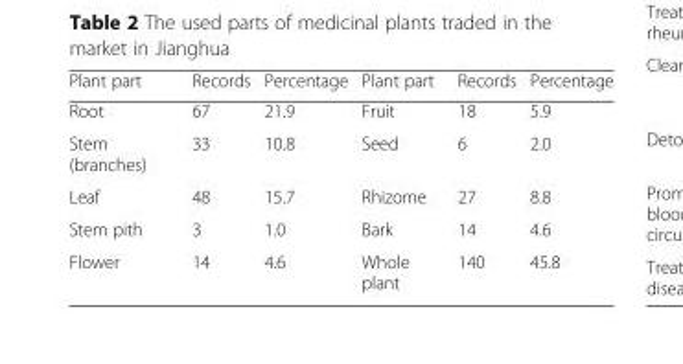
<table><thead><tr><td>Plant part</td><td>Records</td><td>Percentage</td><td>Plant part</td><td>Records</td><td>Percentage</td></tr></thead><tbody><tr><td>Root</td><td>67</td><td>21.9</td><td>Fruit</td><td>18</td><td>5.9</td></tr><tr><td>Stem (branches)</td><td>33</td><td>10.8</td><td>Seed</td><td>6</td><td>2.0</td></tr><tr><td>Leaf</td><td>48</td><td>15.7</td><td>Rhizome</td><td>27</td><td>8.8</td></tr><tr><td>Stem pith</td><td>3</td><td>1.0</td><td>Bark</td><td>14</td><td>4.6</td></tr><tr><td>Flower</td><td>14</td><td>4.6</td><td>Whole plant</td><td>140</td><td>45.8</td></tr></tbody></table>